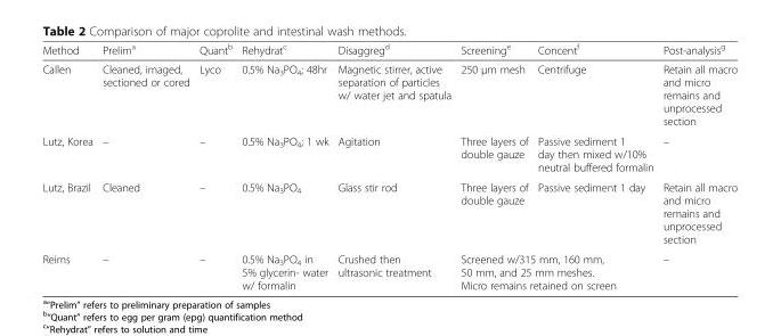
<table><thead><tr><td>Method</td><td>Prelim<sup>a</sup></td><td>Quant<sup>b</sup></td><td>Rehydrat<sup>c</sup></td><td>Disaggreg<sup>d</sup></td><td>Screening<sup>e</sup></td><td>Concent<sup>f</sup></td><td>Post-analysis<sup>g</sup></td></tr></thead><tbody><tr><td>Callen</td><td>Cleaned, imaged, sectioned or cored</td><td>Lyco</td><td>0.5% Na<sub>3</sub>PO<sub>4</sub>; 48hr</td><td>Magnetic stirrer, active separation of particles w/ water jet and spatula</td><td>250 μm mesh</td><td>Centrifuge</td><td>Retain all macro and micro remains and unprocessed section</td></tr><tr><td>Lutz, Korea</td><td>–</td><td>–</td><td>0.5% Na<sub>3</sub>PO<sub>4</sub>; 1 wk</td><td>Agitation</td><td>Three layers of double gauze</td><td>Passive sediment 1 day then mixed w/10% neutral buffered formalin</td><td>–</td></tr><tr><td>Lutz, Brazil</td><td>Cleaned</td><td>–</td><td>0.5% Na<sub>3</sub>PO<sub>4</sub></td><td>Glass stir rod</td><td>Three layers of double gauze</td><td>Passive sediment 1 day</td><td>Retain all macro and micro remains and unprocessed section</td></tr><tr><td>Reims</td><td>–</td><td>–</td><td>0.5% Na<sub>3</sub>PO<sub>4</sub> in 5% glycerin- water w/ formalin</td><td>Crushed then ultrasonic treatment</td><td colspan="2">Screened w/315 mm, 160 mm, 50 mm, and 25 mm meshes. Micro remains retained on screen</td><td>–</td></tr></tbody></table>